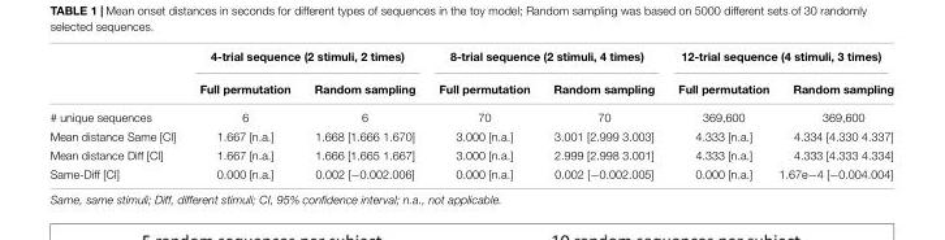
<table><thead><tr><td rowspan="2"></td><td colspan="2">4-trial sequence (2 stimuli, 2 times)</td><td colspan="2">8-trial sequence (2 stimuli, 4 times)</td><td colspan="2">12-trial sequence (4 stimuli, 3 times)</td></tr><tr><td>Full permutation</td><td>Random sampling</td><td>Full permutation</td><td>Random sampling</td><td>Full permutation</td><td>Random sampling</td></tr></thead><tbody><tr><td># unique sequences</td><td>6</td><td>6</td><td>70</td><td>70</td><td>369,600</td><td>369,600</td></tr><tr><td>Mean distance Same [CI]</td><td>1.667 [n.a.]</td><td>1.668 [1.666 1.670]</td><td>3.000 [n.a.]</td><td>3.001 [2.999 3.003]</td><td>4.333 [n.a.]</td><td>4.334 [4.330 4.337]</td></tr><tr><td>Mean distance Diff [CI]</td><td>1.667 [n.a.]</td><td>1.666 [1.665 1.667]</td><td>3.000 [n.a.]</td><td>2.999 [2.998 3.001]</td><td>4.333 [n.a.]</td><td>4.333 [4.333 4.334]</td></tr><tr><td>Same-Diff [CI]</td><td>0.000 [n.a.]</td><td>0.002 [−0.002.006]</td><td>0.000 [n.a.]</td><td>0.002 [−0.002.005]</td><td>0.000 [n.a.]</td><td>1.67e−4 [−0.004.004]</td></tr></tbody></table>